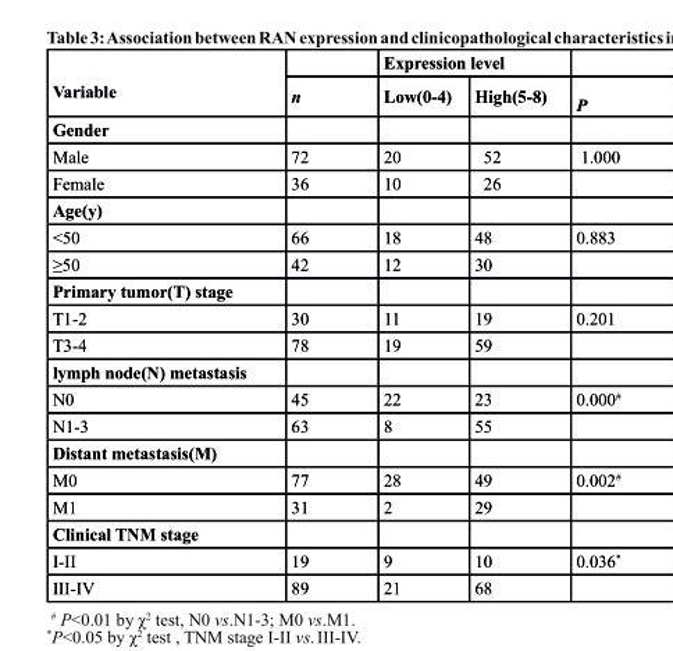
<table><thead><tr><td rowspan="2">Variable</td><td rowspan="2">n</td><td colspan="2">Expression level</td><td rowspan="2">P</td></tr><tr><td>Low(0-4)</td><td>High(5-8)</td></tr></thead><tbody><tr><td colspan="5">Gender</td></tr><tr><td>Male</td><td>72</td><td>20</td><td>52</td><td>1.000</td></tr><tr><td>Female</td><td>36</td><td>10</td><td>26</td><td></td></tr><tr><td colspan="5">Age(y)</td></tr><tr><td>&lt;50</td><td>66</td><td>18</td><td>48</td><td>0.883</td></tr><tr><td>≥50</td><td>42</td><td>12</td><td>30</td><td></td></tr><tr><td colspan="5">Primary tumor(T) stage</td></tr><tr><td>T1-2</td><td>30</td><td>11</td><td>19</td><td>0.201</td></tr><tr><td>T3-4</td><td>78</td><td>19</td><td>59</td><td></td></tr><tr><td colspan="5">lymph node(N) metastasis</td></tr><tr><td>N0</td><td>45</td><td>22</td><td>23</td><td>0.000#</td></tr><tr><td>N1-3</td><td>63</td><td>8</td><td>55</td><td></td></tr><tr><td colspan="5">Distant metastasis(M)</td></tr><tr><td>M0</td><td>77</td><td>28</td><td>49</td><td>0.002#</td></tr><tr><td>M1</td><td>31</td><td>2</td><td>29</td><td></td></tr><tr><td colspan="5">Clinical TNM stage</td></tr><tr><td>I-II</td><td>19</td><td>9</td><td>10</td><td>0.036*</td></tr><tr><td>III-IV</td><td>89</td><td>21</td><td>68</td><td></td></tr></tbody></table>